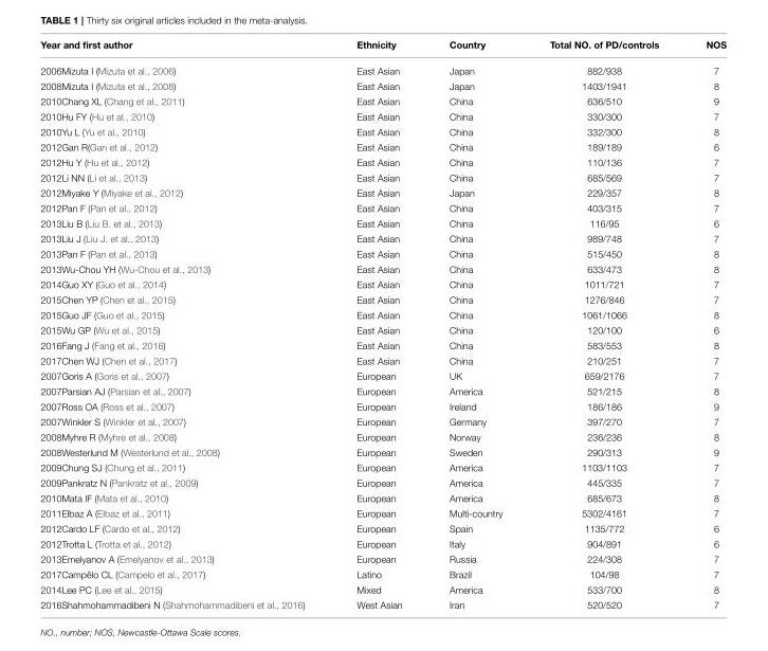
<table><thead><tr><td>Year and first author</td><td>Ethnicity</td><td>Country</td><td>Total NO. of PD/controls</td><td>NOS</td></tr></thead><tbody><tr><td>2006Mizuta I (Mizuta et al., 2006)</td><td>East Asian</td><td>Japan</td><td>882/938</td><td>7</td></tr><tr><td>2008Mizuta I (Mizuta et al., 2008)</td><td>East Asian</td><td>Japan</td><td>1403/1941</td><td>8</td></tr><tr><td>2010Chang XL (Chang et al., 2011)</td><td>East Asian</td><td>China</td><td>636/510</td><td>9</td></tr><tr><td>2010Hu FY (Hu et al., 2010)</td><td>East Asian</td><td>China</td><td>330/300</td><td>7</td></tr><tr><td>2010Yu L (Yu et al., 2010)</td><td>East Asian</td><td>China</td><td>332/300</td><td>8</td></tr><tr><td>2012Gan R(Gan et al., 2012)</td><td>East Asian</td><td>China</td><td>189/189</td><td>6</td></tr><tr><td>2012Hu Y (Hu et al., 2012)</td><td>East Asian</td><td>China</td><td>110/136</td><td>7</td></tr><tr><td>2012Li NN (Li et al., 2013)</td><td>East Asian</td><td>China</td><td>685/569</td><td>7</td></tr><tr><td>2012Miyake Y (Miyake et al., 2012)</td><td>East Asian</td><td>Japan</td><td>229/357</td><td>8</td></tr><tr><td>2012Pan F (Pan et al., 2012)</td><td>East Asian</td><td>China</td><td>403/315</td><td>7</td></tr><tr><td>2013Liu B (Liu B. et al., 2013)</td><td>East Asian</td><td>China</td><td>116/95</td><td>6</td></tr><tr><td>2013Liu J (Liu J. et al., 2013)</td><td>East Asian</td><td>China</td><td>989/748</td><td>7</td></tr><tr><td>2013Pan F (Pan et al., 2013)</td><td>East Asian</td><td>China</td><td>515/450</td><td>8</td></tr><tr><td>2013Wu-Chou YH (Wu-Chou et al., 2013)</td><td>East Asian</td><td>China</td><td>633/473</td><td>8</td></tr><tr><td>2014Guo XY (Guo et al., 2014)</td><td>East Asian</td><td>China</td><td>1011/721</td><td>7</td></tr><tr><td>2015Chen YP (Chen et al., 2015)</td><td>East Asian</td><td>China</td><td>1276/846</td><td>7</td></tr><tr><td>2015Guo JF (Guo et al., 2015)</td><td>East Asian</td><td>China</td><td>1061/1066</td><td>8</td></tr><tr><td>2015Wu GP (Wu et al., 2015)</td><td>East Asian</td><td>China</td><td>120/100</td><td>6</td></tr><tr><td>2016Fang J (Fang et al., 2016)</td><td>East Asian</td><td>China</td><td>583/553</td><td>8</td></tr><tr><td>2017Chen WJ (Chen et al., 2017)</td><td>East Asian</td><td>China</td><td>210/251</td><td>7</td></tr><tr><td>2007Goris A (Goris et al., 2007)</td><td>European</td><td>UK</td><td>659/2176</td><td>7</td></tr><tr><td>2007Parsian AJ (Parsian et al., 2007)</td><td>European</td><td>America</td><td>521/215</td><td>8</td></tr><tr><td>2007Ross OA (Ross et al., 2007)</td><td>European</td><td>Ireland</td><td>186/186</td><td>9</td></tr><tr><td>2007Winkler S (Winkler et al., 2007)</td><td>European</td><td>Germany</td><td>397/270</td><td>7</td></tr><tr><td>2008Myhre R (Myhre et al., 2008)</td><td>European</td><td>Norway</td><td>236/236</td><td>8</td></tr><tr><td>2008Westerlund M (Westerlund et al., 2008)</td><td>European</td><td>Sweden</td><td>290/313</td><td>9</td></tr><tr><td>2009Chung SJ (Chung et al., 2011)</td><td>European</td><td>America</td><td>1103/1103</td><td>7</td></tr><tr><td>2009Pankratz N (Pankratz et al., 2009)</td><td>European</td><td>America</td><td>445/335</td><td>7</td></tr><tr><td>2010Mata IF (Mata et al., 2010)</td><td>European</td><td>America</td><td>685/673</td><td>8</td></tr><tr><td>2011Elbaz A (Elbaz et al., 2011)</td><td>European</td><td>Multi-country</td><td>5302/4161</td><td>7</td></tr><tr><td>2012Cardo LF (Cardo et al., 2012)</td><td>European</td><td>Spain</td><td>1135/772</td><td>6</td></tr><tr><td>2012Trotta L (Trotta et al., 2012)</td><td>European</td><td>Italy</td><td>904/891</td><td>6</td></tr><tr><td>2013Emelyanov A (Emelyanov et al., 2013)</td><td>European</td><td>Russia</td><td>224/308</td><td>7</td></tr><tr><td>2017Campêlo CL (Campelo et al., 2017)</td><td>Latino</td><td>Brazil</td><td>104/98</td><td>7</td></tr><tr><td>2014Lee PC (Lee et al., 2015)</td><td>Mixed</td><td>America</td><td>533/700</td><td>8</td></tr><tr><td>2016Shahmohammadibeni N (Shahmohammadibeni et al., 2016)</td><td>West Asian</td><td>Iran</td><td>520/520</td><td>7</td></tr></tbody></table>